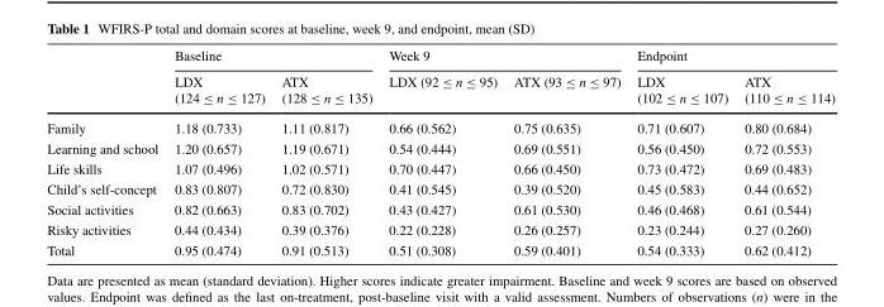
<table><thead><tr><td rowspan="2"></td><td colspan="2">Baseline</td><td colspan="2">Week 9</td><td colspan="2">Endpoint</td></tr><tr><td>LDX (124 ≤ n ≤ 127)</td><td>ATX (128 ≤ n ≤ 135)</td><td>LDX (92 ≤ n ≤ 95)</td><td>ATX (93 ≤ n ≤ 97)</td><td>LDX (102 ≤ n ≤ 107)</td><td>ATX (110 ≤ n ≤ 114)</td></tr></thead><tbody><tr><td>Family</td><td>1.18 (0.733)</td><td>1.11 (0.817)</td><td>0.66 (0.562)</td><td>0.75 (0.635)</td><td>0.71 (0.607)</td><td>0.80 (0.684)</td></tr><tr><td>Learning and school</td><td>1.20 (0.657)</td><td>1.19 (0.671)</td><td>0.54 (0.444)</td><td>0.69 (0.551)</td><td>0.56 (0.450)</td><td>0.72 (0.553)</td></tr><tr><td>Life skills</td><td>1.07 (0.496)</td><td>1.02 (0.571)</td><td>0.70 (0.447)</td><td>0.66 (0.450)</td><td>0.73 (0.472)</td><td>0.69 (0.483)</td></tr><tr><td>Child’s self-concept</td><td>0.83 (0.807)</td><td>0.72 (0.830)</td><td>0.41 (0.545)</td><td>0.39 (0.520)</td><td>0.45 (0.583)</td><td>0.44 (0.652)</td></tr><tr><td>Social activities</td><td>0.82 (0.663)</td><td>0.83 (0.702)</td><td>0.43 (0.427)</td><td>0.61 (0.530)</td><td>0.46 (0.468)</td><td>0.61 (0.544)</td></tr><tr><td>Risky activities</td><td>0.44 (0.434)</td><td>0.39 (0.376)</td><td>0.22 (0.228)</td><td>0.26 (0.257)</td><td>0.23 (0.244)</td><td>0.27 (0.260)</td></tr><tr><td>Total</td><td>0.95 (0.474)</td><td>0.91 (0.513)</td><td>0.51 (0.308)</td><td>0.59 (0.401)</td><td>0.54 (0.333)</td><td>0.62 (0.412)</td></tr></tbody></table>